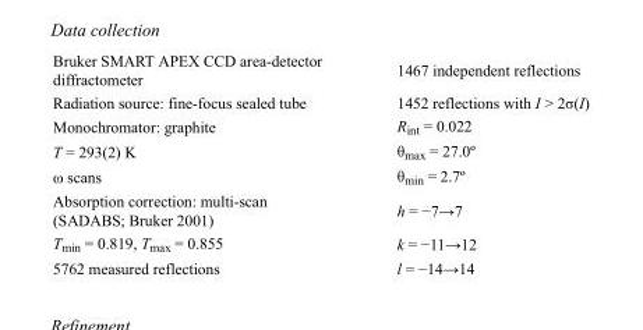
<table><tbody><tr><td>Bruker SMART APEX CCD area-detector diffractometer</td><td>1467 independent reflections</td></tr><tr><td>Radiation source: fine-focus sealed tube</td><td>1452 reflections with I &gt; 2σ(I)</td></tr><tr><td>Monochromator: graphite</td><td>R<sub>int</sub> = 0.022</td></tr><tr><td>T = 293(2) K</td><td>θ<sub>max</sub> = 27.0º</td></tr><tr><td>ω scans</td><td>θ<sub>min</sub> = 2.7º</td></tr><tr><td>Absorption correction: multi-scan (SADABS; Bruker 2001)</td><td>h = −7→7</td></tr><tr><td>T<sub>min</sub> = 0.819, T<sub>max</sub> = 0.855</td><td>k = −11→12</td></tr><tr><td>5762 measured reflections</td><td>l = −14→14</td></tr></tbody></table>